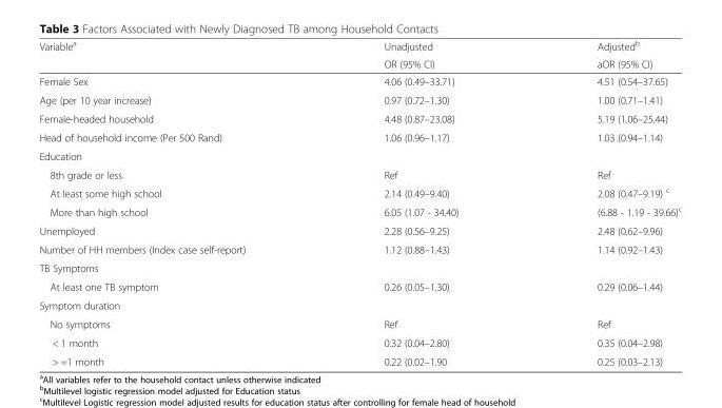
<table><thead><tr><td rowspan="2">Variable<sup>a</sup></td><td rowspan="2">Unadjusted OR (95% CI)</td><td rowspan="2">Adjusted<sup>b</sup> aOR (95% CI)</td></tr><tr></tr></thead><tbody><tr><td>Female Sex</td><td>4.06 (0.49–33.71)</td><td>4.51 (0.54–37.65)</td></tr><tr><td>Age (per 10 year increase)</td><td>0.97 (0.72–1.30)</td><td>1.00 (0.71–1.41)</td></tr><tr><td>Female-headed household</td><td>4.48 (0.87–23.08)</td><td>5.19 (1.06–25.44)</td></tr><tr><td>Head of household income (Per 500 Rand)</td><td>1.06 (0.96–1.17)</td><td>1.03 (0.94–1.14)</td></tr><tr><td colspan="3">Education</td></tr><tr><td>8th grade or less</td><td>Ref</td><td>Ref</td></tr><tr><td>At least some high school</td><td>2.14 (0.49–9.40)</td><td>2.08 (0.47–9.19) <sup>c</sup></td></tr><tr><td>More than high school</td><td>6.05 (1.07 - 34.40)</td><td>(6.88 - 1.19 - 39.66)<sup>c</sup></td></tr><tr><td>Unemployed</td><td>2.28 (0.56–9.25)</td><td>2.48 (0.62–9.96)</td></tr><tr><td>Number of HH members (Index case self-report)</td><td>1.12 (0.88–1.43)</td><td>1.14 (0.92–1.43)</td></tr><tr><td colspan="3">TB Symptoms</td></tr><tr><td>At least one TB symptom</td><td>0.26 (0.05–1.30)</td><td>0.29 (0.06–1.44)</td></tr><tr><td colspan="3">Symptom duration</td></tr><tr><td>No symptoms</td><td>Ref</td><td>Ref</td></tr><tr><td>&lt; 1 month</td><td>0.32 (0.04–2.80)</td><td>0.35 (0.04–2.98)</td></tr><tr><td>&gt; =1 month</td><td>0.22 (0.02–1.90</td><td>0.25 (0.03–2.13)</td></tr></tbody></table>